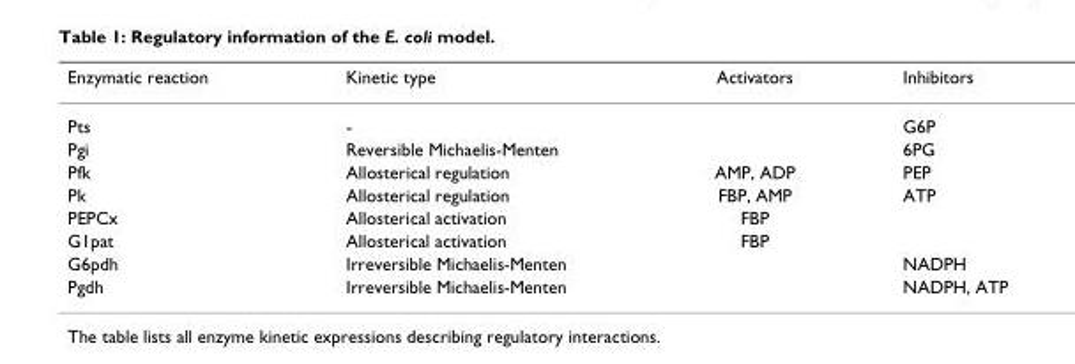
<table><thead><tr><td>Enzymatic reaction</td><td>Kinetic type</td><td>Activators</td><td>Inhibitors</td></tr></thead><tbody><tr><td>Pts</td><td>-</td><td></td><td>G6P</td></tr><tr><td>Pgi</td><td>Reversible Michaelis-Menten</td><td></td><td>6PG</td></tr><tr><td>Pfk</td><td>Allosterical regulation</td><td>AMP, ADP</td><td>PEP</td></tr><tr><td>Pk</td><td>Allosterical regulation</td><td>FBP, AMP</td><td>ATP</td></tr><tr><td>PEPCx</td><td>Allosterical activation</td><td>FBP</td><td></td></tr><tr><td>G1pat</td><td>Allosterical activation</td><td>FBP</td><td></td></tr><tr><td>G6pdh</td><td>Irreversible Michaelis-Menten</td><td></td><td>NADPH</td></tr><tr><td>Pgdh</td><td>Irreversible Michaelis-Menten</td><td></td><td>NADPH, ATP</td></tr></tbody></table>